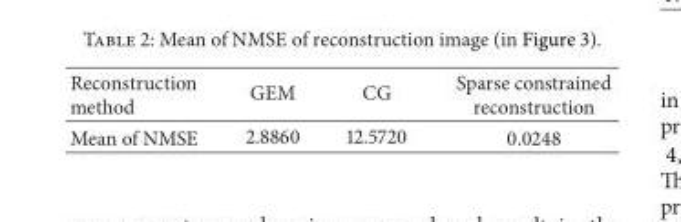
<table><thead><tr><td>Reconstruction method</td><td>GEM</td><td>CG</td><td>Sparse constrained reconstruction</td></tr></thead><tbody><tr><td>Mean of NMSE</td><td>2.8860</td><td>12.5720</td><td>0.0248</td></tr></tbody></table>